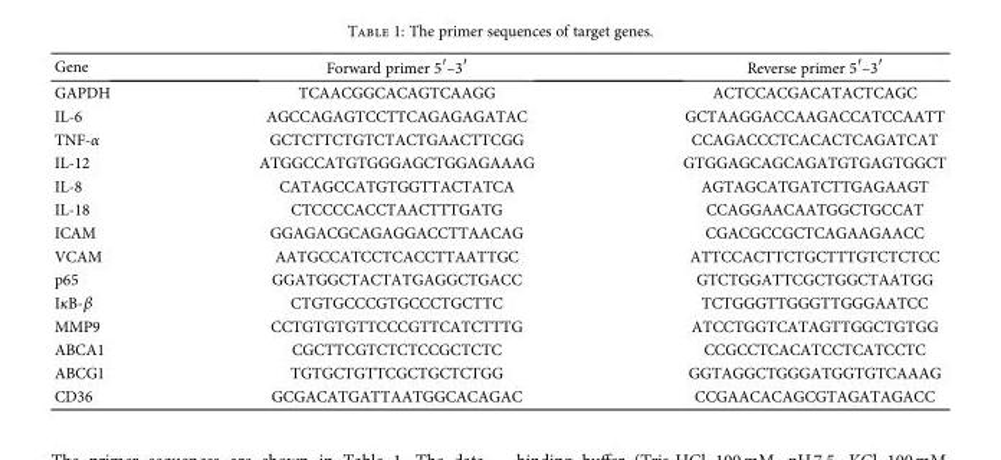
<table><thead><tr><td>Gene</td><td>Forward primer 5′–3′</td><td>Reverse primer 5′–3′</td></tr></thead><tbody><tr><td>GAPDH</td><td>TCAACGGCACAGTCAAGG</td><td>ACTCCACGACATACTCAGC</td></tr><tr><td>IL-6</td><td>AGCCAGAGTCCTTCAGAGAGATAC</td><td>GCTAAGGACCAAGACCATCCAATT</td></tr><tr><td>TNF-α</td><td>GCTCTTCTGTCTACTGAACTTCGG</td><td>CCAGACCCTCACACTCAGATCAT</td></tr><tr><td>IL-12</td><td>ATGGCCATGTGGGAGCTGGAGAAAG</td><td>GTGGAGCAGCAGATGTGAGTGGCT</td></tr><tr><td>IL-8</td><td>CATAGCCATGTGGTTACTATCA</td><td>AGTAGCATGATCTTGAGAAGT</td></tr><tr><td>IL-18</td><td>CTCCCCACCTAACTTTGATG</td><td>CCAGGAACAATGGCTGCCAT</td></tr><tr><td>ICAM</td><td>GGAGACGCAGAGGACCTTAACAG</td><td>CGACGCCGCTCAGAAGAACC</td></tr><tr><td>VCAM</td><td>AATGCCATCCTCACCTTAATTGC</td><td>ATTCCACTTCTGCTTTGTCTCTCC</td></tr><tr><td>p65</td><td>GGATGGCTACTATGAGGCTGACC</td><td>GTCTGGATTCGCTGGCTAATGG</td></tr><tr><td>IκB-β</td><td>CTGTGCCCGTGCCCTGCTTC</td><td>TCTGGGTTGGGTTGGGAATCC</td></tr><tr><td>MMP9</td><td>CCTGTGTGTTCCCGTTCATCTTTG</td><td>ATCCTGGTCATAGTTGGCTGTGG</td></tr><tr><td>ABCA1</td><td>CGCTTCGTCTCTCCGCTCTC</td><td>CCGCCTCACATCCTCATCCTC</td></tr><tr><td>ABCG1</td><td>TGTGCTGTTCGCTGCTCTGG</td><td>GGTAGGCTGGGATGGTGTCAAAG</td></tr><tr><td>CD36</td><td>GCGACATGATTAATGGCACAGAC</td><td>CCGAACACAGCGTAGATAGACC</td></tr></tbody></table>